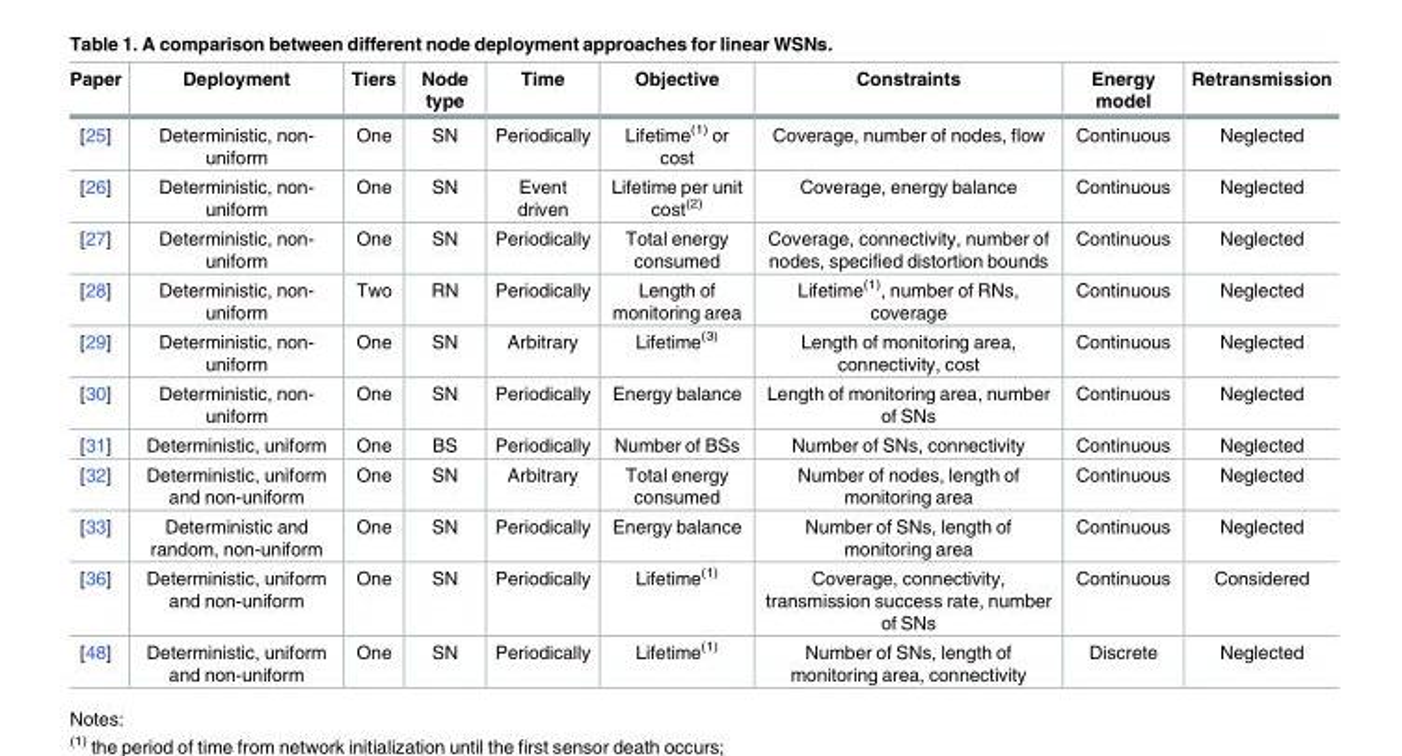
<table><thead><tr><td>Paper</td><td>Deployment</td><td>Tiers</td><td>Node type</td><td>Time</td><td>Objective</td><td>Constraints</td><td>Energy model</td><td>Retransmission</td></tr></thead><tbody><tr><td>[25]</td><td>Deterministic, non- uniform</td><td>One</td><td>SN</td><td>Periodically</td><td>Lifetime<sup>(1)</sup> or cost</td><td>Coverage, number of nodes, flow</td><td>Continuous</td><td>Neglected</td></tr><tr><td>[26]</td><td>Deterministic, non- uniform</td><td>One</td><td>SN</td><td>Event driven</td><td>Lifetime per unit cost<sup>(2)</sup></td><td>Coverage, energy balance</td><td>Continuous</td><td>Neglected</td></tr><tr><td>[27]</td><td>Deterministic, non- uniform</td><td>One</td><td>SN</td><td>Periodically</td><td>Total energy consumed</td><td>Coverage, connectivity, number of nodes, specified distortion bounds</td><td>Continuous</td><td>Neglected</td></tr><tr><td>[28]</td><td>Deterministic, non- uniform</td><td>Two</td><td>RN</td><td>Periodically</td><td>Length of monitoring area</td><td>Lifetime<sup>(1)</sup>, number of RNs, coverage</td><td>Continuous</td><td>Neglected</td></tr><tr><td>[29]</td><td>Deterministic, non- uniform</td><td>One</td><td>SN</td><td>Arbitrary</td><td>Lifetime<sup>(3)</sup></td><td>Length of monitoring area, connectivity, cost</td><td>Continuous</td><td>Neglected</td></tr><tr><td>[30]</td><td>Deterministic, non- uniform</td><td>One</td><td>SN</td><td>Periodically</td><td>Energy balance</td><td>Length of monitoring area, number of SNs</td><td>Continuous</td><td>Neglected</td></tr><tr><td>[31]</td><td>Deterministic, uniform</td><td>One</td><td>BS</td><td>Periodically</td><td>Number of BSs</td><td>Number of SNs, connectivity</td><td>Continuous</td><td>Neglected</td></tr><tr><td>[32]</td><td>Deterministic, uniform and non-uniform</td><td>One</td><td>SN</td><td>Arbitrary</td><td>Total energy consumed</td><td>Number of nodes, length of monitoring area</td><td>Continuous</td><td>Neglected</td></tr><tr><td>[33]</td><td>Deterministic and random, non-uniform</td><td>One</td><td>SN</td><td>Periodically</td><td>Energy balance</td><td>Number of SNs, length of monitoring area</td><td>Continuous</td><td>Neglected</td></tr><tr><td>[36]</td><td>Deterministic, uniform and non-uniform</td><td>One</td><td>SN</td><td>Periodically</td><td>Lifetime<sup>(1)</sup></td><td>Coverage, connectivity, transmission success rate, number of SNs</td><td>Continuous</td><td>Considered</td></tr><tr><td>[48]</td><td>Deterministic, uniform and non-uniform</td><td>One</td><td>SN</td><td>Periodically</td><td>Lifetime<sup>(1)</sup></td><td>Number of SNs, length of monitoring area, connectivity</td><td>Discrete</td><td>Neglected</td></tr></tbody></table>